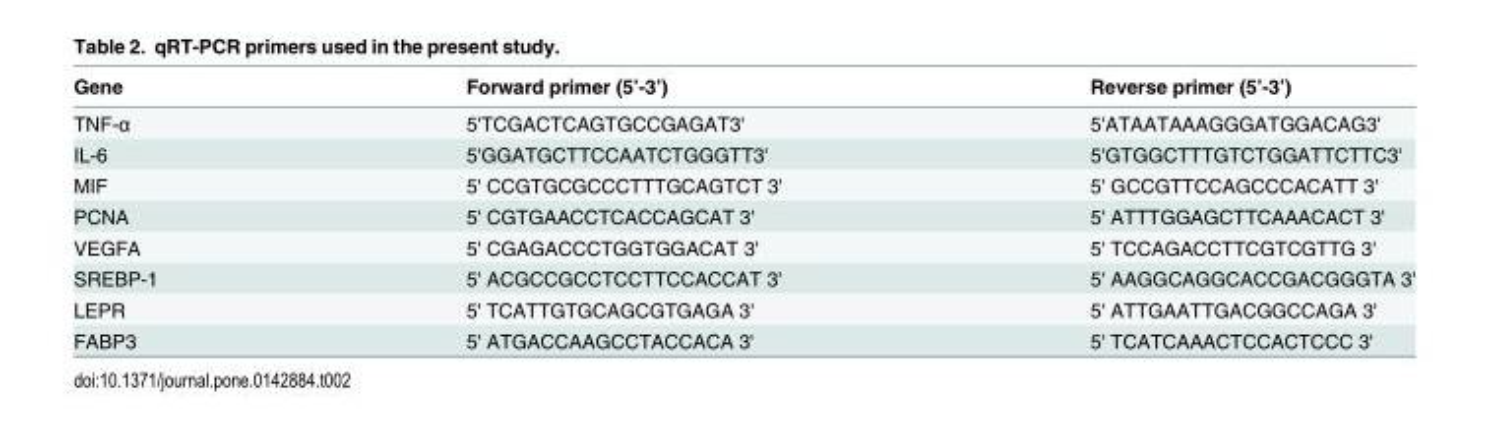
<table><thead><tr><td>Gene</td><td>Forward primer (5’-3’)</td><td>Reverse primer (5’-3’)</td></tr></thead><tbody><tr><td>TNF-α</td><td>5&#x27;TCGACTCAGTGCCGAGAT3&#x27;</td><td>5&#x27;ATAATAAAGGGATGGACAG3&#x27;</td></tr><tr><td>IL-6</td><td>5&#x27;GGATGCTTCCAATCTGGGTT3&#x27;</td><td>5&#x27;GTGGCTTTGTCTGGATTCTTC3&#x27;</td></tr><tr><td>MIF</td><td>5&#x27; CCGTGCGCCCTTTGCAGTCT 3&#x27;</td><td>5&#x27; GCCGTTCCAGCCCACATT 3&#x27;</td></tr><tr><td>PCNA</td><td>5&#x27; CGTGAACCTCACCAGCAT 3&#x27;</td><td>5&#x27; ATTTGGAGCTTCAAACACT 3&#x27;</td></tr><tr><td>VEGFA</td><td>5&#x27; CGAGACCCTGGTGGACAT 3&#x27;</td><td>5&#x27; TCCAGACCTTCGTCGTTG 3&#x27;</td></tr><tr><td>SREBP-1</td><td>5&#x27; ACGCCGCCTCCTTCCACCAT 3&#x27;</td><td>5&#x27; AAGGCAGGCACCGACGGGTA 3&#x27;</td></tr><tr><td>LEPR</td><td>5&#x27; TCATTGTGCAGCGTGAGA 3&#x27;</td><td>5&#x27; ATTGAATTGACGGCCAGA 3&#x27;</td></tr><tr><td>FABP3</td><td>5&#x27; ATGACCAAGCCTACCACA 3&#x27;</td><td>5&#x27; TCATCAAACTCCACTCCC 3&#x27;</td></tr></tbody></table>